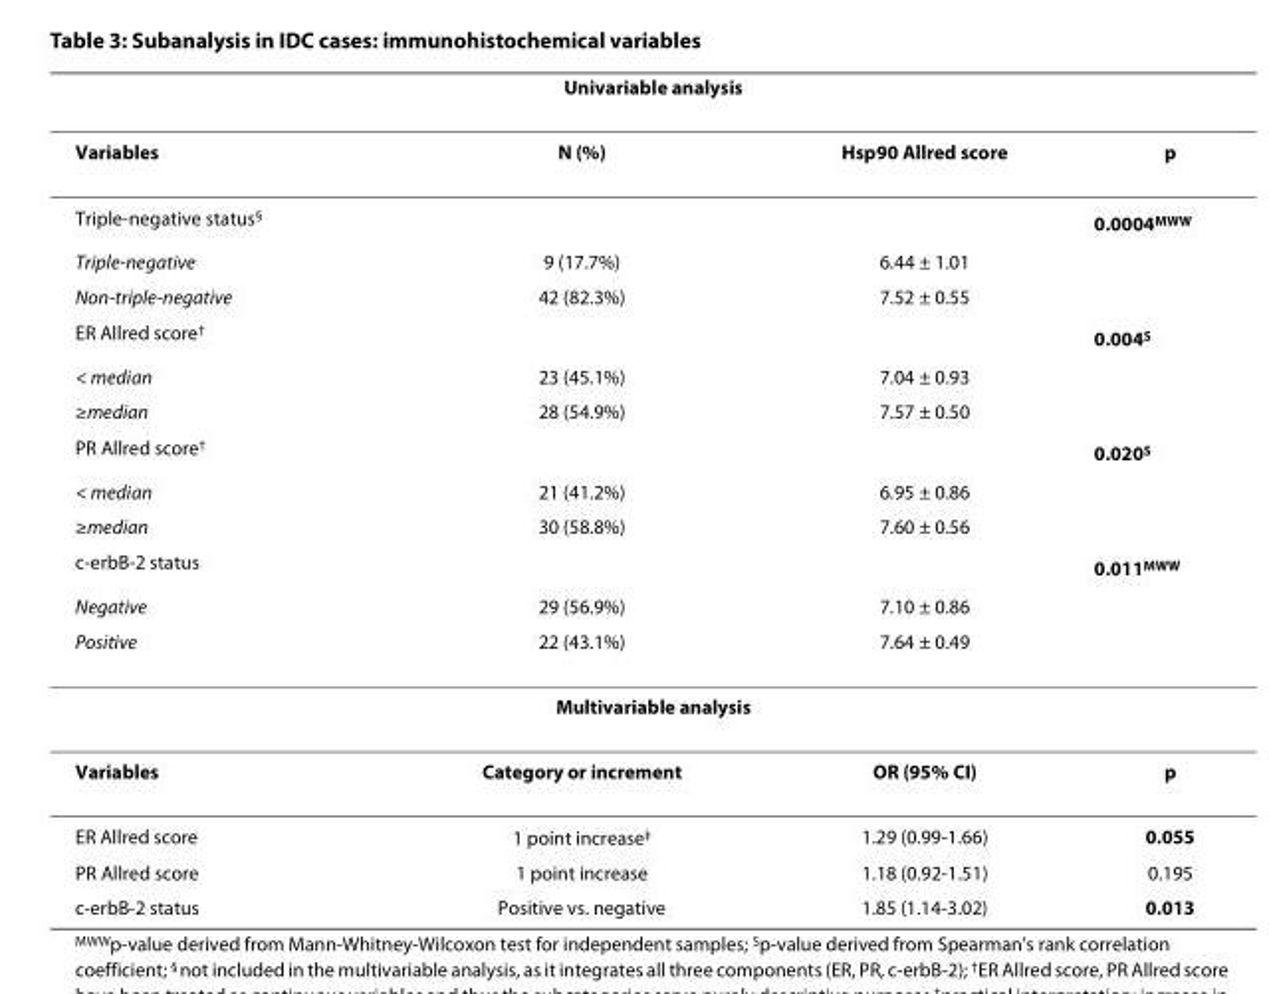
<table><thead><tr><td colspan="4">Univariable analysis</td></tr><tr><td>Variables</td><td>N (%)</td><td>Hsp90 Allred score</td><td>p</td></tr></thead><tbody><tr><td>Triple-negative status<sup>§</sup></td><td></td><td></td><td>0.0004<sup>MWW</sup></td></tr><tr><td>Triple-negative</td><td>9 (17.7%)</td><td>6.44 ± 1.01</td><td></td></tr><tr><td>Non-triple-negative</td><td>42 (82.3%)</td><td>7.52 ± 0.55</td><td></td></tr><tr><td>ER Allred score<sup>†</sup></td><td></td><td></td><td>0.004<sup>S</sup></td></tr><tr><td>&lt; median</td><td>23 (45.1%)</td><td>7.04 ± 0.93</td><td></td></tr><tr><td>≥median</td><td>28 (54.9%)</td><td>7.57 ± 0.50</td><td></td></tr><tr><td>PR Allred score<sup>†</sup></td><td></td><td></td><td>0.020<sup>S</sup></td></tr><tr><td>&lt; median</td><td>21 (41.2%)</td><td>6.95 ± 0.86</td><td></td></tr><tr><td>≥median</td><td>30 (58.8%)</td><td>7.60 ± 0.56</td><td></td></tr><tr><td>c-erbB-2 status</td><td></td><td></td><td>0.011<sup>MWW</sup></td></tr><tr><td>Negative</td><td>29 (56.9%)</td><td>7.10 ± 0.86</td><td></td></tr><tr><td>Positive</td><td>22 (43.1%)</td><td>7.64 ± 0.49</td><td></td></tr><tr><td colspan="4">Multivariable analysis</td></tr><tr><td>Variables</td><td>Category or increment</td><td>OR (95% CI)</td><td>p</td></tr><tr><td>ER Allred score</td><td>1 point increase<sup>‡</sup></td><td>1.29 (0.99-1.66)</td><td>0.055</td></tr><tr><td>PR Allred score</td><td>1 point increase</td><td>1.18 (0.92-1.51)</td><td>0.195</td></tr><tr><td>c-erbB-2 status</td><td>Positive vs. negative</td><td>1.85 (1.14-3.02)</td><td>0.013</td></tr></tbody></table>